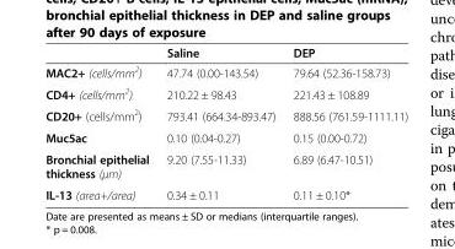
<table><thead><tr><td></td><td>Saline</td><td>DEP</td></tr></thead><tbody><tr><td>MAC2+ (cells/mm<sup>2</sup>)</td><td>47.74 (0.00-143.54)</td><td>79.64 (52.36-158.73)</td></tr><tr><td>CD4+ (cells/mm<sup>2</sup>)</td><td>210.22 ± 98.43</td><td>221.43 ± 108.89</td></tr><tr><td>CD20+ (cells/mm<sup>2</sup>)</td><td>793.41 (664.34-893.47)</td><td>888.56 (761.59-1111.11)</td></tr><tr><td>Muc5ac</td><td>0.10 (0.04-0.27)</td><td>0.15 (0.00-0.72)</td></tr><tr><td>Bronchial epithelial thickness (μm)</td><td>9.20 (7.55-11.33)</td><td>6.89 (6.47-10.51)</td></tr><tr><td>IL-13 (area+/area)</td><td>0.34 ± 0.11</td><td>0.11 ± 0.10*</td></tr></tbody></table>